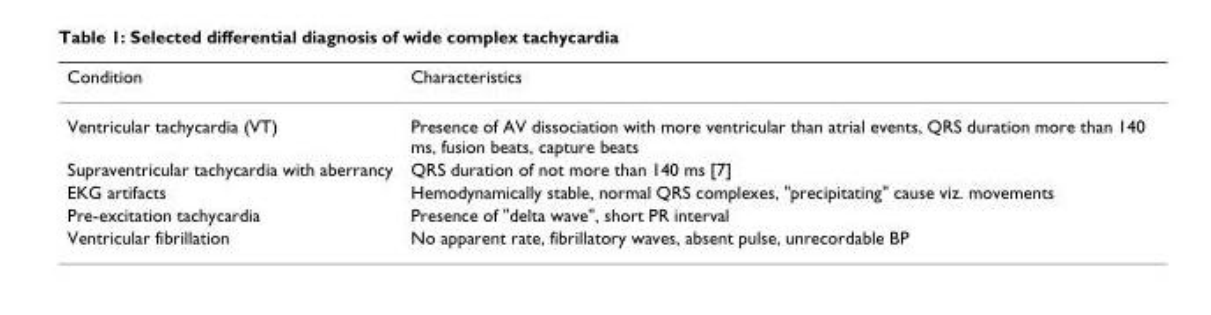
<table><thead><tr><td>Condition</td><td>Characteristics</td></tr></thead><tbody><tr><td>Ventricular tachycardia (VT)</td><td>Presence of AV dissociation with more ventricular than atrial events, QRS duration more than 140 ms, fusion beats, capture beats</td></tr><tr><td>Supraventricular tachycardia with aberrancy</td><td>QRS duration of not more than 140 ms [7]</td></tr><tr><td>EKG artifacts</td><td>Hemodynamically stable, normal QRS complexes, &quot;precipitating&quot; cause viz. movements</td></tr><tr><td>Pre-excitation tachycardia</td><td>Presence of &quot;delta wave&quot;, short PR interval</td></tr><tr><td>Ventricular fibrillation</td><td>No apparent rate, fibrillatory waves, absent pulse, unrecordable BP</td></tr></tbody></table>